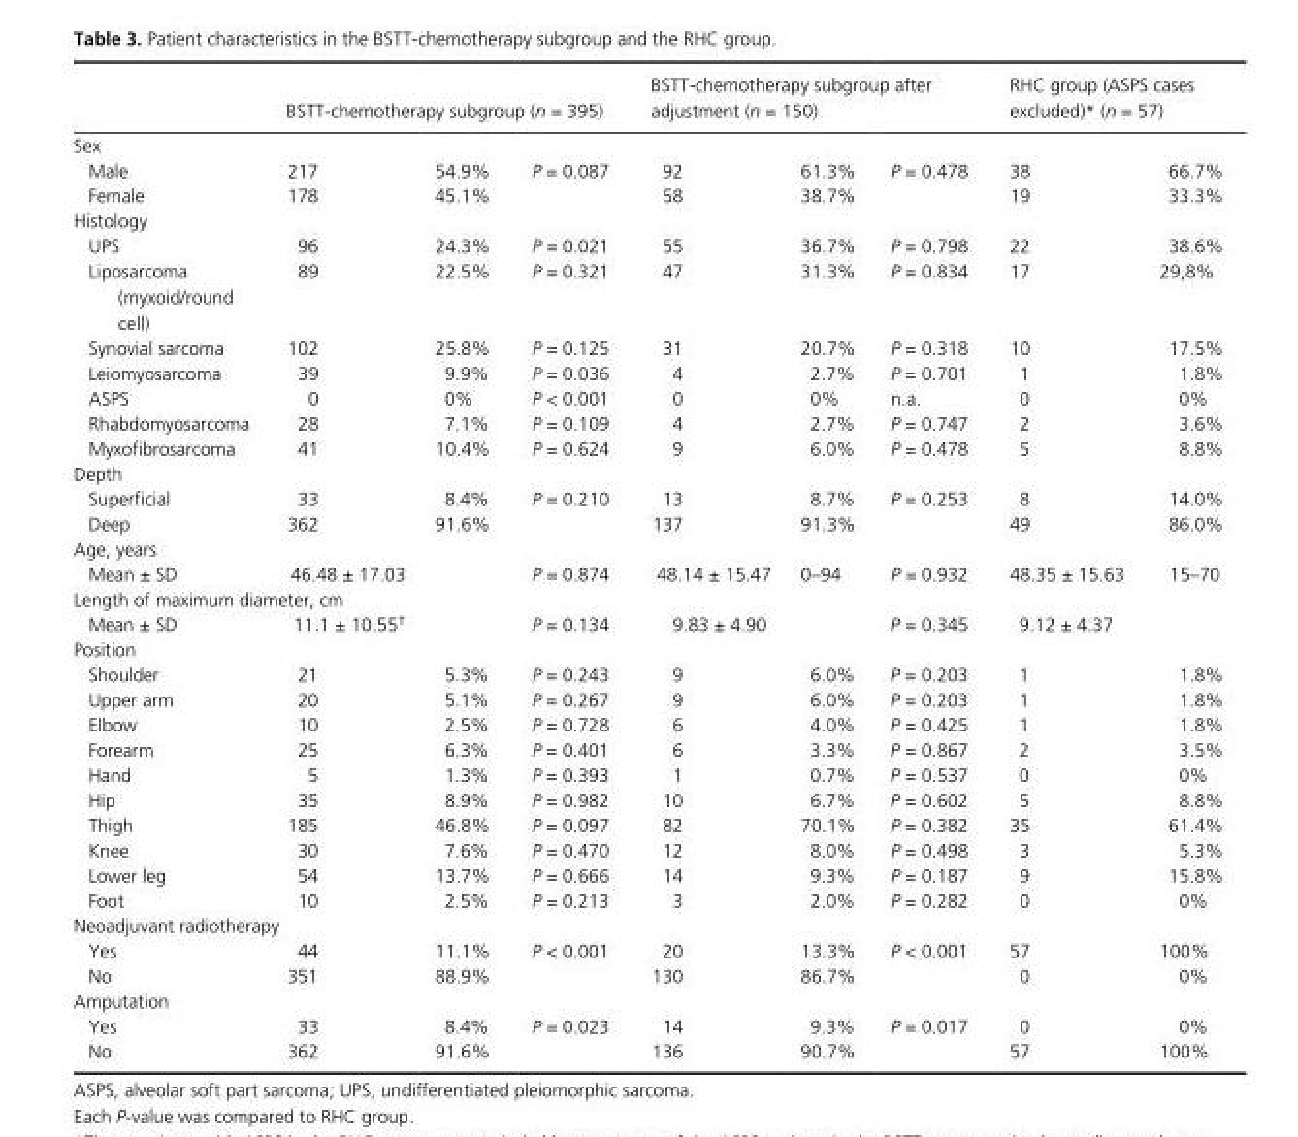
<table><thead><tr><td></td><td colspan="3">BSTT- chemotherapy subgroup (n = 395)</td><td colspan="3">BSTT- chemotherapy subgroup after adjustment (n = 150)</td><td colspan="2">RHC group (ASPS cases excluded)* (n = 57)</td></tr><tr><td colspan="9">Sex</td></tr><tr><td>Male</td><td>217</td><td>54.9%</td><td>P = 0.087</td><td>92</td><td>61.3%</td><td>P = 0.478</td><td>38</td><td>66.7%</td></tr></thead><tbody><tr><td>Female</td><td>178</td><td>45.1%</td><td></td><td>58</td><td>38.7%</td><td></td><td>19</td><td>33.3%</td></tr><tr><td colspan="9">Histology</td></tr><tr><td>UPS</td><td>96</td><td>24.3%</td><td>P = 0.021</td><td>55</td><td>36.7%</td><td>P = 0.798</td><td>22</td><td>38.6%</td></tr><tr><td>Liposarcoma (myxoid/round cell)</td><td>89</td><td>22.5%</td><td>P = 0.321</td><td>47</td><td>31.3%</td><td>P = 0.834</td><td>17</td><td>29,8%</td></tr><tr><td>Synovial sarcoma</td><td>102</td><td>25.8%</td><td>P = 0.125</td><td>31</td><td>20.7%</td><td>P = 0.318</td><td>10</td><td>17.5%</td></tr><tr><td>Leiomyosarcoma</td><td>39</td><td>9.9%</td><td>P = 0.036</td><td>4</td><td>2.7%</td><td>P = 0.701</td><td>1</td><td>1.8%</td></tr><tr><td>ASPS</td><td>0</td><td>0%</td><td>P &lt; 0.001</td><td>0</td><td>0%</td><td>n.a.</td><td>0</td><td>0%</td></tr><tr><td>Rhabdomyosarcoma</td><td>28</td><td>7.1%</td><td>P = 0.109</td><td>4</td><td>2.7%</td><td>P = 0.747</td><td>2</td><td>3.6%</td></tr><tr><td>Myxofibrosarcoma</td><td>41</td><td>10.4%</td><td>P = 0.624</td><td>9</td><td>6.0%</td><td>P = 0.478</td><td>5</td><td>8.8%</td></tr><tr><td colspan="9">Depth</td></tr><tr><td>Superficial</td><td>33</td><td>8.4%</td><td>P = 0.210</td><td>13</td><td>8.7%</td><td>P = 0.253</td><td>8</td><td>14.0%</td></tr><tr><td>Deep</td><td>362</td><td>91.6%</td><td></td><td>137</td><td>91.3%</td><td></td><td>49</td><td>86.0%</td></tr><tr><td colspan="9">Age, years</td></tr><tr><td>Mean ± SD</td><td>46.48 ± 17.03</td><td></td><td>P = 0.874</td><td>48.14 ± 15.47</td><td>0–94</td><td>P = 0.932</td><td>48.35 ± 15.63</td><td>15–70</td></tr><tr><td colspan="9">Length of maximum diameter, cm</td></tr><tr><td>Mean ± SD</td><td>11.1 ± 10.55†</td><td></td><td>P = 0.134</td><td>9.83 ± 4.90</td><td></td><td>P = 0.345</td><td>9.12 ± 4.37</td><td></td></tr><tr><td colspan="9">Position</td></tr><tr><td>Shoulder</td><td>21</td><td>5.3%</td><td>P = 0.243</td><td>9</td><td>6.0%</td><td>P = 0.203</td><td>1</td><td>1.8%</td></tr><tr><td>Upper arm</td><td>20</td><td>5.1%</td><td>P = 0.267</td><td>9</td><td>6.0%</td><td>P = 0.203</td><td>1</td><td>1.8%</td></tr><tr><td>Elbow</td><td>10</td><td>2.5%</td><td>P = 0.728</td><td>6</td><td>4.0%</td><td>P = 0.425</td><td>1</td><td>1.8%</td></tr><tr><td>Forearm</td><td>25</td><td>6.3%</td><td>P = 0.401</td><td>6</td><td>3.3%</td><td>P = 0.867</td><td>2</td><td>3.5%</td></tr><tr><td>Hand</td><td>5</td><td>1.3%</td><td>P = 0.393</td><td>1</td><td>0.7%</td><td>P = 0.537</td><td>0</td><td>0%</td></tr><tr><td>Hip</td><td>35</td><td>8.9%</td><td>P = 0.982</td><td>10</td><td>6.7%</td><td>P = 0.602</td><td>5</td><td>8.8%</td></tr><tr><td>Thigh</td><td>185</td><td>46.8%</td><td>P = 0.097</td><td>82</td><td>70.1%</td><td>P = 0.382</td><td>35</td><td>61.4%</td></tr><tr><td>Knee</td><td>30</td><td>7.6%</td><td>P = 0.470</td><td>12</td><td>8.0%</td><td>P = 0.498</td><td>3</td><td>5.3%</td></tr><tr><td>Lower leg</td><td>54</td><td>13.7%</td><td>P = 0.666</td><td>14</td><td>9.3%</td><td>P = 0.187</td><td>9</td><td>15.8%</td></tr><tr><td>Foot</td><td>10</td><td>2.5%</td><td>P = 0.213</td><td>3</td><td>2.0%</td><td>P = 0.282</td><td>0</td><td>0%</td></tr><tr><td colspan="9">Neoadjuvant radiotherapy</td></tr><tr><td>Yes</td><td>44</td><td>11.1%</td><td>P &lt; 0.001</td><td>20</td><td>13.3%</td><td>P &lt; 0.001</td><td>57</td><td>100%</td></tr><tr><td>No</td><td>351</td><td>88.9%</td><td></td><td>130</td><td>86.7%</td><td></td><td>0</td><td>0%</td></tr><tr><td colspan="9">Amputation</td></tr><tr><td>Yes</td><td>33</td><td>8.4%</td><td>P = 0.023</td><td>14</td><td>9.3%</td><td>P = 0.017</td><td>0</td><td>0%</td></tr><tr><td>No</td><td>362</td><td>91.6%</td><td></td><td>136</td><td>90.7%</td><td></td><td>57</td><td>100%</td></tr></tbody></table>